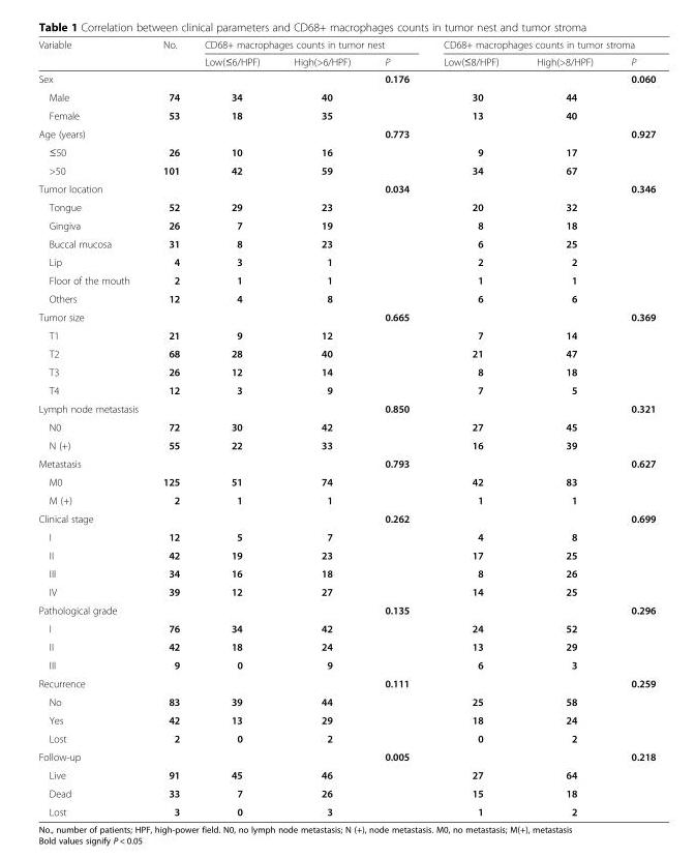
<table><thead><tr><td rowspan="2">Variable</td><td rowspan="2">No.</td><td colspan="3">CD68+ macrophages counts in tumor nest</td><td colspan="3">CD68+ macrophages counts in tumor stroma</td></tr><tr><td>Low(≤6/HPF)</td><td>High(&gt;6/HPF)</td><td>P</td><td>Low(≤8/HPF)</td><td>High(&gt;8/HPF)</td><td>P</td></tr></thead><tbody><tr><td>Sex</td><td></td><td></td><td></td><td>0.176</td><td></td><td></td><td>0.060</td></tr><tr><td>Male</td><td>74</td><td>34</td><td>40</td><td></td><td>30</td><td>44</td><td></td></tr><tr><td>Female</td><td>53</td><td>18</td><td>35</td><td></td><td>13</td><td>40</td><td></td></tr><tr><td>Age (years)</td><td></td><td></td><td></td><td>0.773</td><td></td><td></td><td>0.927</td></tr><tr><td>≤50</td><td>26</td><td>10</td><td>16</td><td></td><td>9</td><td>17</td><td></td></tr><tr><td>&gt;50</td><td>101</td><td>42</td><td>59</td><td></td><td>34</td><td>67</td><td></td></tr><tr><td>Tumor location</td><td></td><td></td><td></td><td>0.034</td><td></td><td></td><td>0.346</td></tr><tr><td>Tongue</td><td>52</td><td>29</td><td>23</td><td></td><td>20</td><td>32</td><td></td></tr><tr><td>Gingiva</td><td>26</td><td>7</td><td>19</td><td></td><td>8</td><td>18</td><td></td></tr><tr><td>Buccal mucosa</td><td>31</td><td>8</td><td>23</td><td></td><td>6</td><td>25</td><td></td></tr><tr><td>Lip</td><td>4</td><td>3</td><td>1</td><td></td><td>2</td><td>2</td><td></td></tr><tr><td>Floor of the mouth</td><td>2</td><td>1</td><td>1</td><td></td><td>1</td><td>1</td><td></td></tr><tr><td>Others</td><td>12</td><td>4</td><td>8</td><td></td><td>6</td><td>6</td><td></td></tr><tr><td>Tumor size</td><td></td><td></td><td></td><td>0.665</td><td></td><td></td><td>0.369</td></tr><tr><td>T1</td><td>21</td><td>9</td><td>12</td><td></td><td>7</td><td>14</td><td></td></tr><tr><td>T2</td><td>68</td><td>28</td><td>40</td><td></td><td>21</td><td>47</td><td></td></tr><tr><td>T3</td><td>26</td><td>12</td><td>14</td><td></td><td>8</td><td>18</td><td></td></tr><tr><td>T4</td><td>12</td><td>3</td><td>9</td><td></td><td>7</td><td>5</td><td></td></tr><tr><td>Lymph node metastasis</td><td></td><td></td><td></td><td>0.850</td><td></td><td></td><td>0.321</td></tr><tr><td>N0</td><td>72</td><td>30</td><td>42</td><td></td><td>27</td><td>45</td><td></td></tr><tr><td>N (+)</td><td>55</td><td>22</td><td>33</td><td></td><td>16</td><td>39</td><td></td></tr><tr><td>Metastasis</td><td></td><td></td><td></td><td>0.793</td><td></td><td></td><td>0.627</td></tr><tr><td>M0</td><td>125</td><td>51</td><td>74</td><td></td><td>42</td><td>83</td><td></td></tr><tr><td>M (+)</td><td>2</td><td>1</td><td>1</td><td></td><td>1</td><td>1</td><td></td></tr><tr><td>Clinical stage</td><td></td><td></td><td></td><td>0.262</td><td></td><td></td><td>0.699</td></tr><tr><td>I</td><td>12</td><td>5</td><td>7</td><td></td><td>4</td><td>8</td><td></td></tr><tr><td>II</td><td>42</td><td>19</td><td>23</td><td></td><td>17</td><td>25</td><td></td></tr><tr><td>III</td><td>34</td><td>16</td><td>18</td><td></td><td>8</td><td>26</td><td></td></tr><tr><td>IV</td><td>39</td><td>12</td><td>27</td><td></td><td>14</td><td>25</td><td></td></tr><tr><td>Pathological grade</td><td></td><td></td><td></td><td>0.135</td><td></td><td></td><td>0.296</td></tr><tr><td>I</td><td>76</td><td>34</td><td>42</td><td></td><td>24</td><td>52</td><td></td></tr><tr><td>II</td><td>42</td><td>18</td><td>24</td><td></td><td>13</td><td>29</td><td></td></tr><tr><td>III</td><td>9</td><td>0</td><td>9</td><td></td><td>6</td><td>3</td><td></td></tr><tr><td>Recurrence</td><td></td><td></td><td></td><td>0.111</td><td></td><td></td><td>0.259</td></tr><tr><td>No</td><td>83</td><td>39</td><td>44</td><td></td><td>25</td><td>58</td><td></td></tr><tr><td>Yes</td><td>42</td><td>13</td><td>29</td><td></td><td>18</td><td>24</td><td></td></tr><tr><td>Lost</td><td>2</td><td>0</td><td>2</td><td></td><td>0</td><td>2</td><td></td></tr><tr><td>Follow-up</td><td></td><td></td><td></td><td>0.005</td><td></td><td></td><td>0.218</td></tr><tr><td>Live</td><td>91</td><td>45</td><td>46</td><td></td><td>27</td><td>64</td><td></td></tr><tr><td>Dead</td><td>33</td><td>7</td><td>26</td><td></td><td>15</td><td>18</td><td></td></tr><tr><td>Lost</td><td>3</td><td>0</td><td>3</td><td></td><td>1</td><td>2</td><td></td></tr></tbody></table>